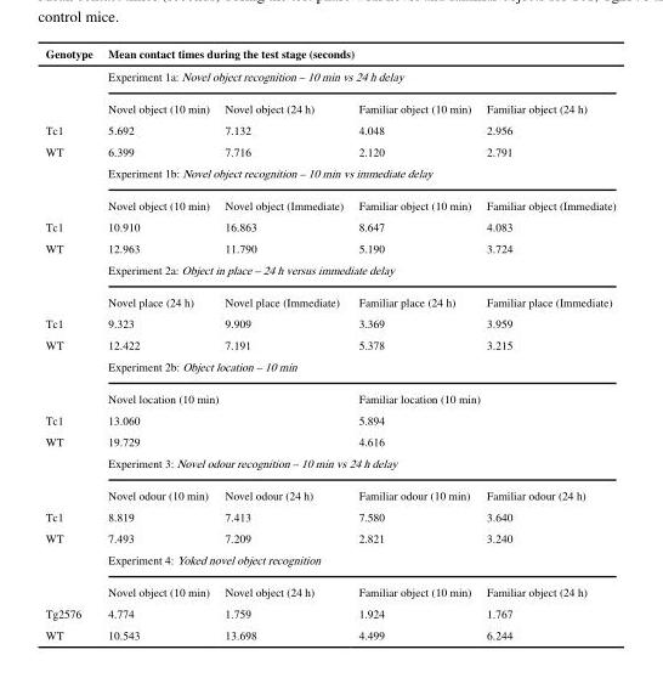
<table><thead><tr><td rowspan="3">Genotype</td><td rowspan="2" colspan="4">Mean contact times during the test stage (seconds) Experiment 1a: Novel object recognition – 10 min vs 24 h delay</td></tr><tr></tr><tr><td>Novel object (10 min)</td><td>Novel object (24 h)</td><td>Familiar object (10 min)</td><td>Familiar object (24 h)</td></tr></thead><tbody><tr><td>Tc1</td><td>5.692</td><td>7.132</td><td>4.048</td><td>2.956</td></tr><tr><td rowspan="3">WT</td><td>6.399</td><td>7.716</td><td>2.120</td><td>2.791</td></tr><tr><td colspan="4">Experiment 1b: Novel object recognition – 10 min vs immediate delay</td></tr><tr><td>Novel object (10 min)</td><td>Novel object (Immediate)</td><td>Familiar object (10 min)</td><td>Familiar object (Immediate)</td></tr><tr><td>Tc1</td><td>10.910</td><td>16.863</td><td>8.647</td><td>4.083</td></tr><tr><td rowspan="3">WT</td><td>12.963</td><td>11.790</td><td>5.190</td><td>3.724</td></tr><tr><td colspan="4">Experiment 2a: Object in place – 24 h versus immediate delay</td></tr><tr><td>Novel place (24 h)</td><td>Novel place (Immediate)</td><td>Familiar place (24 h)</td><td>Familiar place (Immediate)</td></tr><tr><td>Tc1</td><td>9.323</td><td>9.909</td><td>3.369</td><td>3.959</td></tr><tr><td rowspan="3">WT</td><td>12.422</td><td>7.191</td><td>5.378</td><td>3.215</td></tr><tr><td colspan="4">Experiment 2b: Object location – 10 min</td></tr><tr><td colspan="2">Novel location (10 min)</td><td colspan="2">Familiar location (10 min)</td></tr><tr><td>Tc1</td><td>13.060</td><td></td><td>5.894</td><td></td></tr><tr><td rowspan="3">WT</td><td>19.729</td><td></td><td>4.616</td><td></td></tr><tr><td colspan="4">Experiment 3: Novel odour recognition – 10 min vs 24 h delay</td></tr><tr><td>Novel odour (10 min)</td><td>Novel odour (24 h)</td><td>Familiar odour (10 min)</td><td>Familiar odour (24 h)</td></tr><tr><td>Tc1</td><td>8.819</td><td>7.413</td><td>7.580</td><td>3.640</td></tr><tr><td rowspan="3">WT</td><td>7.493</td><td>7.209</td><td>2.821</td><td>3.240</td></tr><tr><td colspan="4">Experiment 4: Yoked novel object recognition</td></tr><tr><td>Novel object (10 min)</td><td>Novel object (24 h)</td><td>Familiar object (10 min)</td><td>Familiar object (24 h)</td></tr><tr><td>Tg2576</td><td>4.774</td><td>1.759</td><td>1.924</td><td>1.767</td></tr><tr><td>WT</td><td>10.543</td><td>13.698</td><td>4.499</td><td>6.244</td></tr></tbody></table>